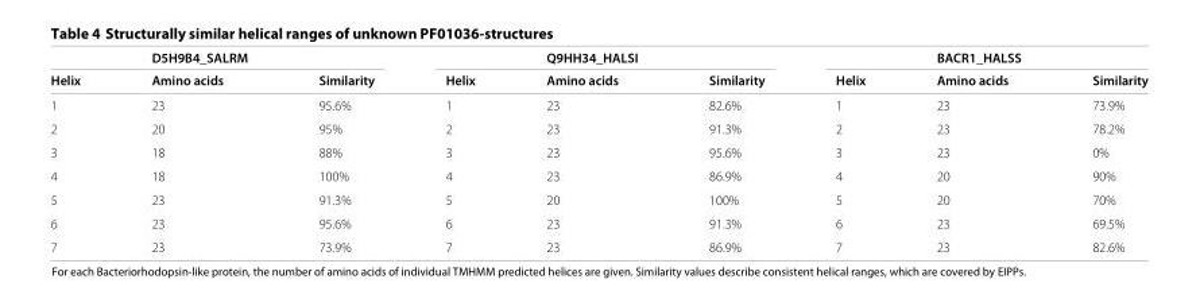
<table><thead><tr><td rowspan="2">Helix</td><td rowspan="2">D5H9B4_SALRM Amino acids</td><td rowspan="2">Similarity</td><td rowspan="2">Helix</td><td rowspan="2">Q9HH34_HALSI Amino acids</td><td rowspan="2">Similarity</td><td rowspan="2">Helix</td><td rowspan="2">BACR1_HALSS Amino acids</td><td rowspan="2">Similarity</td></tr><tr></tr></thead><tbody><tr><td>1</td><td>23</td><td>95.6%</td><td>1</td><td>23</td><td>82.6%</td><td>1</td><td>23</td><td>73.9%</td></tr><tr><td>2</td><td>20</td><td>95%</td><td>2</td><td>23</td><td>91.3%</td><td>2</td><td>23</td><td>78.2%</td></tr><tr><td>3</td><td>18</td><td>88%</td><td>3</td><td>23</td><td>95.6%</td><td>3</td><td>23</td><td>0%</td></tr><tr><td>4</td><td>18</td><td>100%</td><td>4</td><td>23</td><td>86.9%</td><td>4</td><td>20</td><td>90%</td></tr><tr><td>5</td><td>23</td><td>91.3%</td><td>5</td><td>20</td><td>100%</td><td>5</td><td>20</td><td>70%</td></tr><tr><td>6</td><td>23</td><td>95.6%</td><td>6</td><td>23</td><td>91.3%</td><td>6</td><td>23</td><td>69.5%</td></tr><tr><td>7</td><td>23</td><td>73.9%</td><td>7</td><td>23</td><td>86.9%</td><td>7</td><td>23</td><td>82.6%</td></tr></tbody></table>